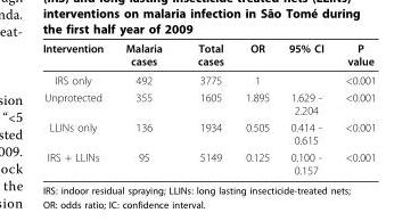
<table><thead><tr><td>Intervention</td><td>Malaria cases</td><td>Total cases</td><td>OR</td><td>95% CI</td><td>P value</td></tr></thead><tbody><tr><td>IRS only</td><td>492</td><td>3775</td><td>1</td><td></td><td>&lt;0.001</td></tr><tr><td>Unprotected</td><td>355</td><td>1605</td><td>1.895</td><td>1.629 - 2.204</td><td>&lt;0.001</td></tr><tr><td>LLINs only</td><td>136</td><td>1934</td><td>0.505</td><td>0.414 - 0.615</td><td>&lt;0.001</td></tr><tr><td>IRS + LLINs</td><td>95</td><td>5149</td><td>0.125</td><td>0.100 - 0.157</td><td>&lt;0.001</td></tr></tbody></table>